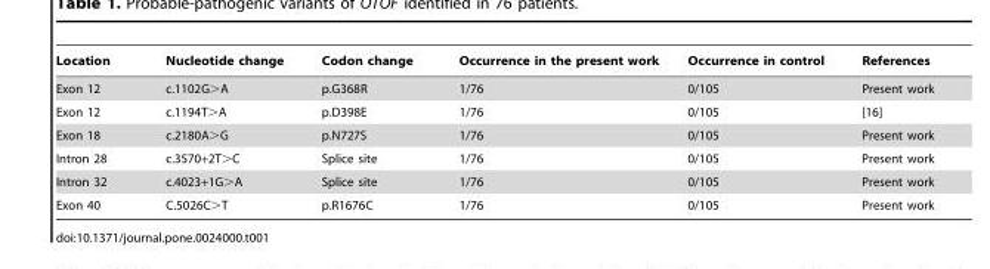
<table><thead><tr><td>Location</td><td>Nucleotide change</td><td>Codon change</td><td>Occurrence in the present work</td><td>Occurrence in control</td><td>References</td></tr></thead><tbody><tr><td>Exon 12</td><td>c.1102G&gt;A</td><td>p.G368R</td><td>1/76</td><td>0/105</td><td>Present work</td></tr><tr><td>Exon 12</td><td>c.1194T&gt;A</td><td>p.D398E</td><td>1/76</td><td>0/105</td><td>[16]</td></tr><tr><td>Exon 18</td><td>c.2180A&gt;G</td><td>p.N727S</td><td>1/76</td><td>0/105</td><td>Present work</td></tr><tr><td>Intron 28</td><td>c.3570+2T&gt;C</td><td>Splice site</td><td>1/76</td><td>0/105</td><td>Present work</td></tr><tr><td>Intron 32</td><td>c.4023+1G&gt;A</td><td>Splice site</td><td>1/76</td><td>0/105</td><td>Present work</td></tr><tr><td>Exon 40</td><td>C.5026C&gt;T</td><td>p.R1676C</td><td>1/76</td><td>0/105</td><td>Present work</td></tr></tbody></table>